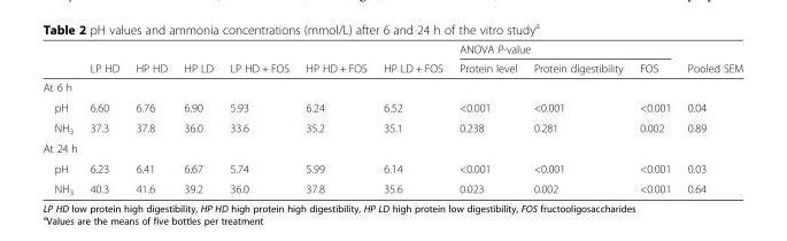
<table><thead><tr><td rowspan="2"></td><td rowspan="2">LP HD</td><td rowspan="2">HP HD</td><td rowspan="2">HP LD</td><td rowspan="2">LP HD + FOS</td><td rowspan="2">HP HD + FOS</td><td rowspan="2">HP LD + FOS</td><td colspan="3">ANOVA P-value</td><td rowspan="2">Pooled SEM</td></tr><tr><td>Protein level</td><td>Protein digestibility</td><td>FOS</td></tr></thead><tbody><tr><td colspan="11">At 6 h</td></tr><tr><td>pH</td><td>6.60</td><td>6.76</td><td>6.90</td><td>5.93</td><td>6.24</td><td>6.52</td><td>&lt;0.001</td><td>&lt;0.001</td><td>&lt;0.001</td><td>0.04</td></tr><tr><td>NH<sub>3</sub></td><td>37.3</td><td>37.8</td><td>36.0</td><td>33.6</td><td>35.2</td><td>35.1</td><td>0.238</td><td>0.281</td><td>0.002</td><td>0.89</td></tr><tr><td colspan="11">At 24 h</td></tr><tr><td>pH</td><td>6.23</td><td>6.41</td><td>6.67</td><td>5.74</td><td>5.99</td><td>6.14</td><td>&lt;0.001</td><td>&lt;0.001</td><td>&lt;0.001</td><td>0.03</td></tr><tr><td>NH<sub>3</sub></td><td>40.3</td><td>41.6</td><td>39.2</td><td>36.0</td><td>37.8</td><td>35.6</td><td>0.023</td><td>0.002</td><td>&lt;0.001</td><td>0.64</td></tr></tbody></table>